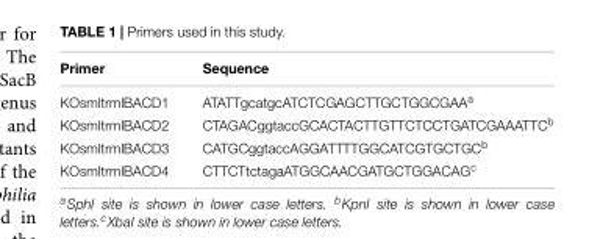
<table><thead><tr><td>Primer</td><td>Sequence</td></tr></thead><tbody><tr><td>KOsmltrmlBACD1</td><td>ATATTgcatgcATCTCGAGCTTGCTGGCGAA<sup>a</sup></td></tr><tr><td>KOsmltrmlBACD2</td><td>CTAGACggtaccGCACTACTTGTTCTCCTGATCGAAATTC<sup>b</sup></td></tr><tr><td>KOsmltrmlBACD3</td><td>CATGCggtaccAGGATTTTGGCATCGTGCTGC<sup>b</sup></td></tr><tr><td>KOsmltrmlBACD4</td><td>CTTCTtctagaATGGCAACGATGCTGGACAG<sup>c</sup></td></tr></tbody></table>